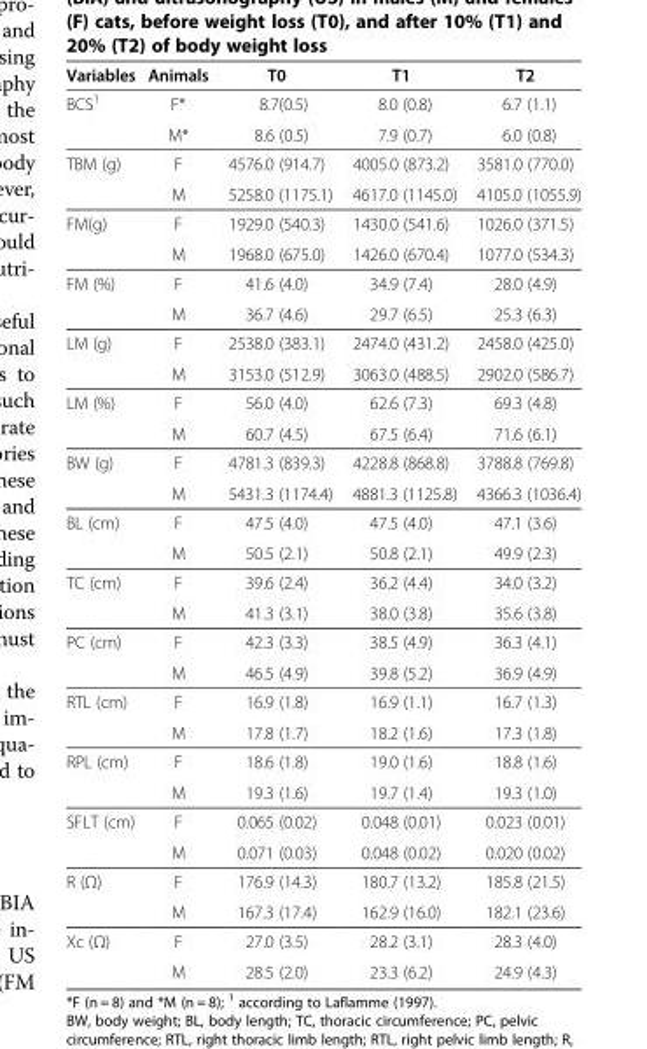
<table><thead><tr><td>Variables</td><td>Animals</td><td>T0</td><td>T1</td><td>T2</td></tr></thead><tbody><tr><td rowspan="2">BCS<sup>1</sup></td><td>F*</td><td>8.7(0.5)</td><td>8.0 (0.8)</td><td>6.7 (1.1)</td></tr><tr><td>M*</td><td>8.6 (0.5)</td><td>7.9 (0.7)</td><td>6.0 (0.8)</td></tr><tr><td rowspan="2">TBM (g)</td><td>F</td><td>4576.0 (914.7)</td><td>4005.0 (873.2)</td><td>3581.0 (770.0)</td></tr><tr><td>M</td><td>5258.0 (1175.1)</td><td>4617.0 (1145.0)</td><td>4105.0 (1055.9)</td></tr><tr><td rowspan="2">FM(g)</td><td>F</td><td>1929.0 (540.3)</td><td>1430.0 (541.6)</td><td>1026.0 (371.5)</td></tr><tr><td>M</td><td>1968.0 (675.0)</td><td>1426.0 (670.4)</td><td>1077.0 (534.3)</td></tr><tr><td rowspan="2">FM (%)</td><td>F</td><td>41.6 (4.0)</td><td>34.9 (7.4)</td><td>28.0 (4.9)</td></tr><tr><td>M</td><td>36.7 (4.6)</td><td>29.7 (6.5)</td><td>25.3 (6.3)</td></tr><tr><td rowspan="2">LM (g)</td><td>F</td><td>2538.0 (383.1)</td><td>2474.0 (431.2)</td><td>2458.0 (425.0)</td></tr><tr><td>M</td><td>3153.0 (512.9)</td><td>3063.0 (488.5)</td><td>2902.0 (586.7)</td></tr><tr><td rowspan="2">LM (%)</td><td>F</td><td>56.0 (4.0)</td><td>62.6 (7.3)</td><td>69.3 (4.8)</td></tr><tr><td>M</td><td>60.7 (4.5)</td><td>67.5 (6.4)</td><td>71.6 (6.1)</td></tr><tr><td rowspan="2">BW (g)</td><td>F</td><td>4781.3 (839.3)</td><td>4228.8 (868.8)</td><td>3788.8 (769.8)</td></tr><tr><td>M</td><td>5431.3 (1174.4)</td><td>4881.3 (1125.8)</td><td>4366.3 (1036.4)</td></tr><tr><td rowspan="2">BL (cm)</td><td>F</td><td>47.5 (4.0)</td><td>47.5 (4.0)</td><td>47.1 (3.6)</td></tr><tr><td>M</td><td>50.5 (2.1)</td><td>50.8 (2.1)</td><td>49.9 (2.3)</td></tr><tr><td rowspan="2">TC (cm)</td><td>F</td><td>39.6 (2.4)</td><td>36.2 (4.4)</td><td>34.0 (3.2)</td></tr><tr><td>M</td><td>41.3 (3.1)</td><td>38.0 (3.8)</td><td>35.6 (3.8)</td></tr><tr><td rowspan="2">PC (cm)</td><td>F</td><td>42.3 (3.3)</td><td>38.5 (4.9)</td><td>36.3 (4.1)</td></tr><tr><td>M</td><td>46.5 (4.9)</td><td>39.8 (5.2)</td><td>36.9 (4.9)</td></tr><tr><td rowspan="2">RTL (cm)</td><td>F</td><td>16.9 (1.8)</td><td>16.9 (1.1)</td><td>16.7 (1.3)</td></tr><tr><td>M</td><td>17.8 (1.7)</td><td>18.2 (1.6)</td><td>17.3 (1.8)</td></tr><tr><td rowspan="2">RPL (cm)</td><td>F</td><td>18.6 (1.8)</td><td>19.0 (1.6)</td><td>18.8 (1.6)</td></tr><tr><td>M</td><td>19.3 (1.6)</td><td>19.7 (1.4)</td><td>19.3 (1.0)</td></tr><tr><td rowspan="2">SFLT (cm)</td><td>F</td><td>0.065 (0.02)</td><td>0.048 (0.01)</td><td>0.023 (0.01)</td></tr><tr><td>M</td><td>0.071 (0.03)</td><td>0.048 (0.02)</td><td>0.020 (0.02)</td></tr><tr><td rowspan="2">R (Ω)</td><td>F</td><td>176.9 (14.3)</td><td>180.7 (13.2)</td><td>185.8 (21.5)</td></tr><tr><td>M</td><td>167.3 (17.4)</td><td>162.9 (16.0)</td><td>182.1 (23.6)</td></tr><tr><td rowspan="2">Xc (Ω)</td><td>F</td><td>27.0 (3.5)</td><td>28.2 (3.1)</td><td>28.3 (4.0)</td></tr><tr><td>M</td><td>28.5 (2.0)</td><td>23.3 (6.2)</td><td>24.9 (4.3)</td></tr></tbody></table>